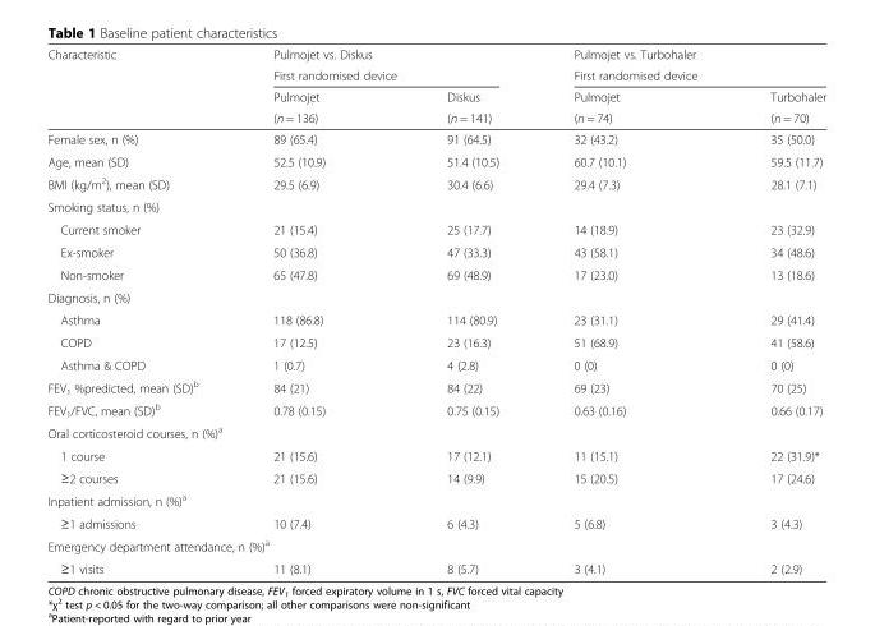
<table><thead><tr><td rowspan="4">Characteristic</td><td>Pulmojet vs. Diskus</td><td></td><td>Pulmojet vs. Turbohaler</td><td></td></tr><tr><td colspan="2">First randomised device</td><td colspan="2">First randomised device</td></tr><tr><td rowspan="2">Pulmojet (n = 136)</td><td rowspan="2">Diskus (n = 141)</td><td rowspan="2">Pulmojet (n = 74)</td><td rowspan="2">Turbohaler (n = 70)</td></tr><tr></tr></thead><tbody><tr><td>Female sex, n (%)</td><td>89 (65.4)</td><td>91 (64.5)</td><td>32 (43.2)</td><td>35 (50.0)</td></tr><tr><td>Age, mean (SD)</td><td>52.5 (10.9)</td><td>51.4 (10.5)</td><td>60.7 (10.1)</td><td>59.5 (11.7)</td></tr><tr><td>BMI (kg/m<sup>2</sup>), mean (SD)</td><td>29.5 (6.9)</td><td>30.4 (6.6)</td><td>29.4 (7.3)</td><td>28.1 (7.1)</td></tr><tr><td colspan="5">Smoking status, n (%)</td></tr><tr><td>Current smoker</td><td>21 (15.4)</td><td>25 (17.7)</td><td>14 (18.9)</td><td>23 (32.9)</td></tr><tr><td>Ex-smoker</td><td>50 (36.8)</td><td>47 (33.3)</td><td>43 (58.1)</td><td>34 (48.6)</td></tr><tr><td>Non-smoker</td><td>65 (47.8)</td><td>69 (48.9)</td><td>17 (23.0)</td><td>13 (18.6)</td></tr><tr><td colspan="5">Diagnosis, n (%)</td></tr><tr><td>Asthma</td><td>118 (86.8)</td><td>114 (80.9)</td><td>23 (31.1)</td><td>29 (41.4)</td></tr><tr><td>COPD</td><td>17 (12.5)</td><td>23 (16.3)</td><td>51 (68.9)</td><td>41 (58.6)</td></tr><tr><td>Asthma &amp; COPD</td><td>1 (0.7)</td><td>4 (2.8)</td><td>0 (0)</td><td>0 (0)</td></tr><tr><td>FEV<sub>1</sub> %predicted, mean (SD)<sup>b</sup></td><td>84 (21)</td><td>84 (22)</td><td>69 (23)</td><td>70 (25)</td></tr><tr><td>FEV<sub>1</sub>/FVC, mean (SD)<sup>b</sup></td><td>0.78 (0.15)</td><td>0.75 (0.15)</td><td>0.63 (0.16)</td><td>0.66 (0.17)</td></tr><tr><td colspan="5">Oral corticosteroid courses, n (%)<sup>a</sup></td></tr><tr><td>1 course</td><td>21 (15.6)</td><td>17 (12.1)</td><td>11 (15.1)</td><td>22 (31.9)*</td></tr><tr><td>≥2 courses</td><td>21 (15.6)</td><td>14 (9.9)</td><td>15 (20.5)</td><td>17 (24.6)</td></tr><tr><td colspan="5">Inpatient admission, n (%)<sup>a</sup></td></tr><tr><td>≥1 admissions</td><td>10 (7.4)</td><td>6 (4.3)</td><td>5 (6.8)</td><td>3 (4.3)</td></tr><tr><td colspan="5">Emergency department attendance, n (%)<sup>a</sup></td></tr><tr><td>≥1 visits</td><td>11 (8.1)</td><td>8 (5.7)</td><td>3 (4.1)</td><td>2 (2.9)</td></tr></tbody></table>